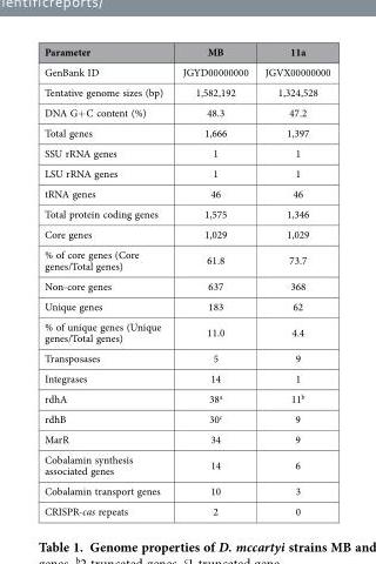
<table><thead><tr><td>Parameter</td><td>MB</td><td>11a</td></tr></thead><tbody><tr><td>GenBank ID</td><td>JGYD00000000</td><td>JGVX00000000</td></tr><tr><td>Tentative genome sizes (bp)</td><td>1,582,192</td><td>1,324,528</td></tr><tr><td>DNA G+ C content (%)</td><td>48.3</td><td>47.2</td></tr><tr><td>Total genes</td><td>1,666</td><td>1,397</td></tr><tr><td>SSU rRNA genes</td><td>1</td><td>1</td></tr><tr><td>LSU rRNA genes</td><td>1</td><td>1</td></tr><tr><td>tRNA genes</td><td>46</td><td>46</td></tr><tr><td>Total protein coding genes</td><td>1,575</td><td>1,346</td></tr><tr><td>Core genes</td><td>1,029</td><td>1,029</td></tr><tr><td>% of core genes (Core genes/Total genes)</td><td>61.8</td><td>73.7</td></tr><tr><td>Non-core genes</td><td>637</td><td>368</td></tr><tr><td>Unique genes</td><td>183</td><td>62</td></tr><tr><td>% of unique genes (Unique genes/Total genes)</td><td>11.0</td><td>4.4</td></tr><tr><td>Transposases</td><td>5</td><td>9</td></tr><tr><td>Integrases</td><td>14</td><td>1</td></tr><tr><td>rdhA</td><td>38<sup>a</sup></td><td>11<sup>b</sup></td></tr><tr><td>rdhB</td><td>30<sup>c</sup></td><td>9</td></tr><tr><td>MarR</td><td>34</td><td>9</td></tr><tr><td>Cobalamin synthesis associated genes</td><td>14</td><td>6</td></tr><tr><td>Cobalamin transport genes</td><td>10</td><td>3</td></tr><tr><td>CRISPR-cas repeats</td><td>2</td><td>0</td></tr></tbody></table>